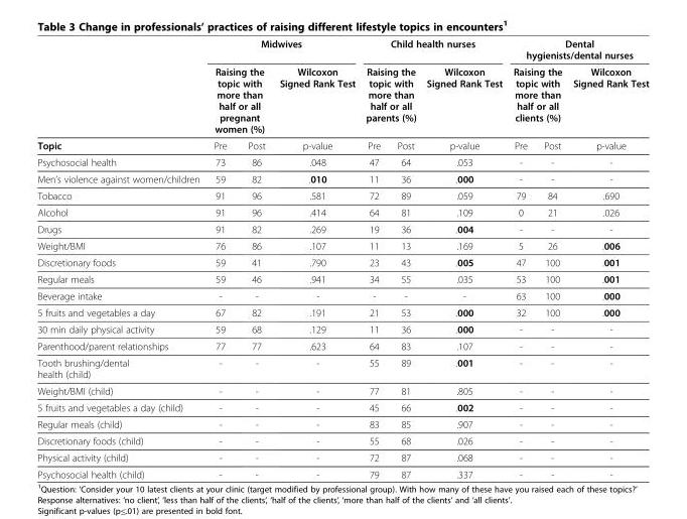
<table><thead><tr><td rowspan="3">Topic</td><td colspan="3">Midwives</td><td colspan="3">Child health nurses</td><td colspan="3">Dental hygienists/dental nurses</td></tr><tr><td colspan="2">Raising the topic with more than half or all pregnant women (%)</td><td rowspan="2">Wilcoxon Signed Rank Test p-value</td><td colspan="2">Raising the topic with more than half or all parents (%)</td><td rowspan="2">Wilcoxon Signed Rank Test p-value</td><td colspan="2">Raising the topic with more than half or all clients (%)</td><td rowspan="2">Wilcoxon Signed Rank Test p-value</td></tr><tr><td>Pre</td><td>Post</td><td>Pre</td><td>Post</td><td>Pre</td><td>Post</td></tr></thead><tbody><tr><td>Psychosocial health</td><td>73</td><td>86</td><td>.048</td><td>47</td><td>64</td><td>.053</td><td>-</td><td>-</td><td>-</td></tr><tr><td>Men’s violence against women/children</td><td>59</td><td>82</td><td>.010</td><td>11</td><td>36</td><td>.000</td><td>-</td><td>-</td><td>-</td></tr><tr><td>Tobacco</td><td>91</td><td>96</td><td>.581</td><td>72</td><td>89</td><td>.059</td><td>79</td><td>84</td><td>.690</td></tr><tr><td>Alcohol</td><td>91</td><td>96</td><td>.414</td><td>64</td><td>81</td><td>.109</td><td>0</td><td>21</td><td>.026</td></tr><tr><td>Drugs</td><td>91</td><td>82</td><td>.269</td><td>19</td><td>36</td><td>.004</td><td>-</td><td>-</td><td>-</td></tr><tr><td>Weight/BMI</td><td>76</td><td>86</td><td>.107</td><td>11</td><td>13</td><td>.169</td><td>5</td><td>26</td><td>.006</td></tr><tr><td>Discretionary foods</td><td>59</td><td>41</td><td>.790</td><td>23</td><td>43</td><td>.005</td><td>47</td><td>100</td><td>.001</td></tr><tr><td>Regular meals</td><td>59</td><td>46</td><td>.941</td><td>34</td><td>55</td><td>.035</td><td>53</td><td>100</td><td>.001</td></tr><tr><td>Beverage intake</td><td>-</td><td>-</td><td>-</td><td>-</td><td>-</td><td>-</td><td>63</td><td>100</td><td>.000</td></tr><tr><td>5 fruits and vegetables a day</td><td>67</td><td>82</td><td>.191</td><td>21</td><td>53</td><td>.000</td><td>32</td><td>100</td><td>.000</td></tr><tr><td>30 min daily physical activity</td><td>59</td><td>68</td><td>.129</td><td>11</td><td>36</td><td>.000</td><td>-</td><td>-</td><td>-</td></tr><tr><td>Parenthood/parent relationships</td><td>77</td><td>77</td><td>.623</td><td>64</td><td>83</td><td>.107</td><td>-</td><td>-</td><td>-</td></tr><tr><td>Tooth brushing/dental health (child)</td><td>-</td><td>-</td><td>-</td><td>55</td><td>89</td><td>.001</td><td>-</td><td>-</td><td>-</td></tr><tr><td>Weight/BMI (child)</td><td>-</td><td>-</td><td>-</td><td>77</td><td>81</td><td>.805</td><td>-</td><td>-</td><td>-</td></tr><tr><td>5 fruits and vegetables a day (child)</td><td>-</td><td>-</td><td>-</td><td>45</td><td>66</td><td>.002</td><td>-</td><td>-</td><td>-</td></tr><tr><td>Regular meals (child)</td><td>-</td><td>-</td><td>-</td><td>83</td><td>85</td><td>.907</td><td>-</td><td>-</td><td>-</td></tr><tr><td>Discretionary foods (child)</td><td>-</td><td>-</td><td>-</td><td>55</td><td>68</td><td>.026</td><td>-</td><td>-</td><td>-</td></tr><tr><td>Physical activity (child)</td><td>-</td><td>-</td><td>-</td><td>72</td><td>87</td><td>.068</td><td>-</td><td>-</td><td>-</td></tr><tr><td>Psychosocial health (child)</td><td>-</td><td>-</td><td>-</td><td>79</td><td>87</td><td>.337</td><td>-</td><td>-</td><td>-</td></tr></tbody></table>